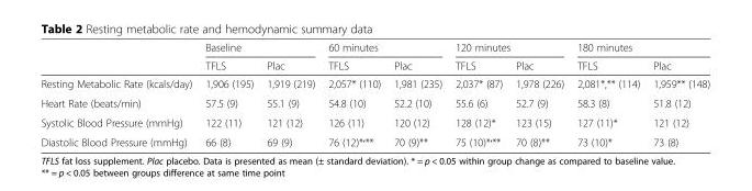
<table><thead><tr><td rowspan="2"></td><td colspan="2">Baseline</td><td colspan="2">60 minutes</td><td colspan="2">120 minutes</td><td colspan="2">180 minutes</td></tr><tr><td>TFLS</td><td>Plac</td><td>TFLS</td><td>Plac</td><td>TFLS</td><td>Plac</td><td>TFLS</td><td>Plac</td></tr></thead><tbody><tr><td>Resting Metabolic Rate (kcals/day)</td><td>1,906 (195)</td><td>1,919 (219)</td><td>2,057* (110)</td><td>1,981 (235)</td><td>2,037* (87)</td><td>1,978 (226)</td><td>2,081*,** (114)</td><td>1,959** (148)</td></tr><tr><td>Heart Rate (beats/min)</td><td>57.5 (9)</td><td>55.1 (9)</td><td>54.8 (10)</td><td>52.2 (10)</td><td>55.6 (6)</td><td>52.7 (9)</td><td>58.3 (8)</td><td>51.8 (12)</td></tr><tr><td>Systolic Blood Pressure (mmHg)</td><td>122 (11)</td><td>121 (12)</td><td>126 (11)</td><td>120 (12)</td><td>128 (12)*</td><td>123 (15)</td><td>127 (11)*</td><td>121 (12)</td></tr><tr><td>Diastolic Blood Pressure (mmHg)</td><td>66 (8)</td><td>69 (9)</td><td>76 (12)*<sup>,</sup>**</td><td>70 (9)**</td><td>75 (10)*<sup>,</sup>**</td><td>70 (8)**</td><td>73 (10)*</td><td>73 (8)</td></tr></tbody></table>